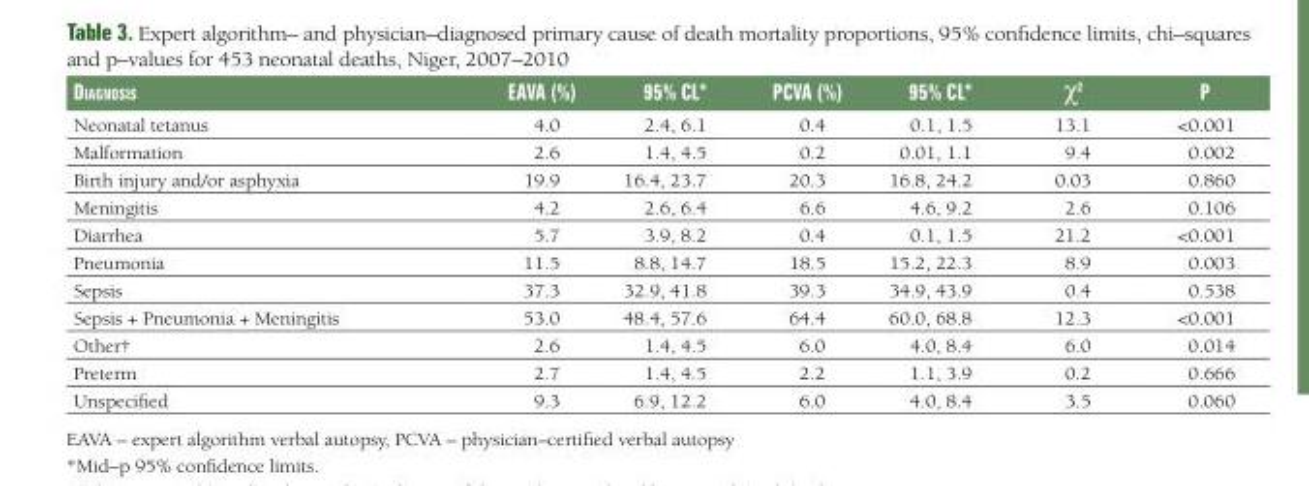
<table><thead><tr><td>diAgNoSiS</td><td>eAVA (%)</td><td>95% cl*</td><td>pcVA (%)</td><td>95% cl*</td><td>χ<sup>2</sup></td><td>p</td></tr></thead><tbody><tr><td>Neonatal tetanus</td><td>4.0</td><td>2.4, 6.1</td><td>0.4</td><td>0.1, 1.5</td><td>13.1</td><td>&lt;0.001</td></tr><tr><td>Malformation</td><td>2.6</td><td>1.4, 4.5</td><td>0.2</td><td>0.01, 1.1</td><td>9.4</td><td>0.002</td></tr><tr><td>Birth injury and/or asphyxia</td><td>19.9</td><td>16.4, 23.7</td><td>20.3</td><td>16.8, 24.2</td><td>0.03</td><td>0.860</td></tr><tr><td>Meningitis</td><td>4.2</td><td>2.6, 6.4</td><td>6.6</td><td>4.6, 9.2</td><td>2.6</td><td>0.106</td></tr><tr><td>Diarrhea</td><td>5.7</td><td>3.9, 8.2</td><td>0.4</td><td>0.1, 1.5</td><td>21.2</td><td>&lt;0.001</td></tr><tr><td>Pneumonia</td><td>11.5</td><td>8.8, 14.7</td><td>18.5</td><td>15.2, 22.3</td><td>8.9</td><td>0.003</td></tr><tr><td>Sepsis</td><td>37.3</td><td>32.9, 41.8</td><td>39.3</td><td>34.9, 43.9</td><td>0.4</td><td>0.538</td></tr><tr><td>Sepsis + Pneumonia + Meningitis</td><td>53.0</td><td>48.4, 57.6</td><td>64.4</td><td>60.0, 68.8</td><td>12.3</td><td>&lt;0.001</td></tr><tr><td>Other†</td><td>2.6</td><td>1.4, 4.5</td><td>6.0</td><td>4.0, 8.4</td><td>6.0</td><td>0.014</td></tr><tr><td>Preterm</td><td>2.7</td><td>1.4, 4.5</td><td>2.2</td><td>1.1, 3.9</td><td>0.2</td><td>0.666</td></tr><tr><td>Unspecified</td><td>9.3</td><td>6.9, 12.2</td><td>6.0</td><td>4.0, 8.4</td><td>3.5</td><td>0.060</td></tr></tbody></table>